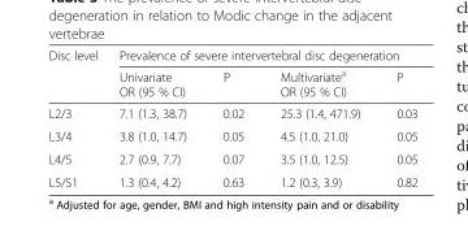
<table><thead><tr><td rowspan="2">Disc level</td><td colspan="4">Prevalence of severe intervertebral disc degeneration</td></tr><tr><td>Univariate OR (95 % CI)</td><td>P</td><td>Multivariate<sup>a</sup> OR (95 % CI)</td><td>P</td></tr></thead><tbody><tr><td>L2/3</td><td>7.1 (1.3, 38.7)</td><td>0.02</td><td>25.3 (1.4, 471.9)</td><td>0.03</td></tr><tr><td>L3/4</td><td>3.8 (1.0, 14.7)</td><td>0.05</td><td>4.5 (1.0, 21.0)</td><td>0.05</td></tr><tr><td>L4/5</td><td>2.7 (0.9, 7.7)</td><td>0.07</td><td>3.5 (1.0, 12.5)</td><td>0.05</td></tr><tr><td>L5/S1</td><td>1.3 (0.4, 4.2)</td><td>0.63</td><td>1.2 (0.3, 3.9)</td><td>0.82</td></tr></tbody></table>